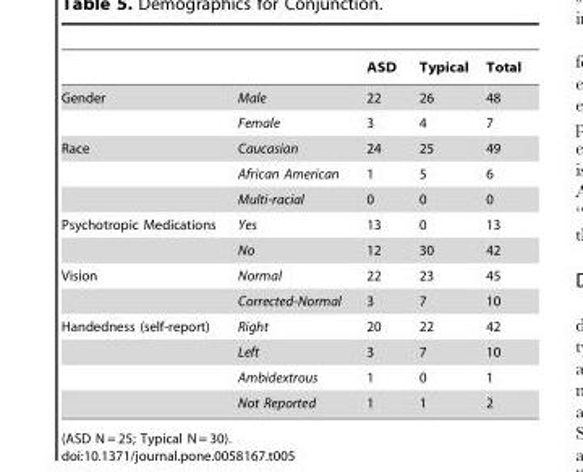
<table><thead><tr><td></td><td></td><td>ASD</td><td>Typical</td><td>Total</td></tr></thead><tbody><tr><td rowspan="2">Gender</td><td>Male</td><td>22</td><td>26</td><td>48</td></tr><tr><td>Female</td><td>3</td><td>4</td><td>7</td></tr><tr><td rowspan="3">Race</td><td>Caucasian</td><td>24</td><td>25</td><td>49</td></tr><tr><td>African American</td><td>1</td><td>5</td><td>6</td></tr><tr><td>Multi-racial</td><td>0</td><td>0</td><td>0</td></tr><tr><td rowspan="2">Psychotropic Medications</td><td>Yes</td><td>13</td><td>0</td><td>13</td></tr><tr><td>No</td><td>12</td><td>30</td><td>42</td></tr><tr><td rowspan="2">Vision</td><td>Normal</td><td>22</td><td>23</td><td>45</td></tr><tr><td>Corrected-Normal</td><td>3</td><td>7</td><td>10</td></tr><tr><td rowspan="4">Handedness (self-report)</td><td>Right</td><td>20</td><td>22</td><td>42</td></tr><tr><td>Left</td><td>3</td><td>7</td><td>10</td></tr><tr><td>Ambidextrous</td><td>1</td><td>0</td><td>1</td></tr><tr><td>Not Reported</td><td>1</td><td>1</td><td>2</td></tr></tbody></table>